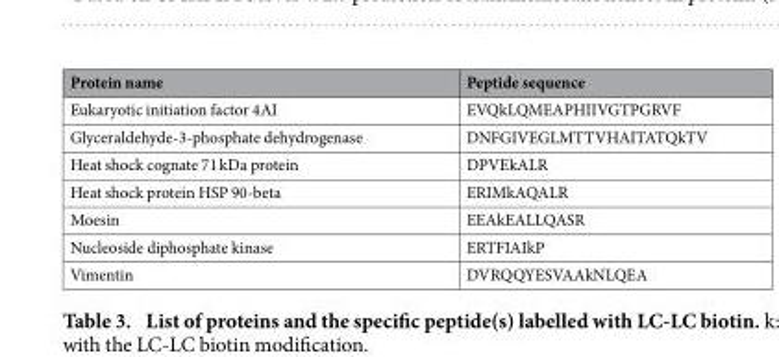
<table><thead><tr><td>Protein name</td><td>Peptide sequence</td></tr></thead><tbody><tr><td>Eukaryotic initiation factor 4AI</td><td>EVQkLQMEAPHIIVGTPGRVF</td></tr><tr><td>Glyceraldehyde-3-phosphate dehydrogenase</td><td>DNFGIVEGLMTTVHAITATQkTV</td></tr><tr><td>Heat shock cognate 71 kDa protein</td><td>DPVEkALR</td></tr><tr><td>Heat shock protein HSP 90-beta</td><td>ERIMkAQALR</td></tr><tr><td>Moesin</td><td>EEAkEALLQASR</td></tr><tr><td>Nucleoside diphosphate kinase</td><td>ERTFIAIkP</td></tr><tr><td>Vimentin</td><td>DVRQQYESVAAkNLQEA</td></tr></tbody></table>